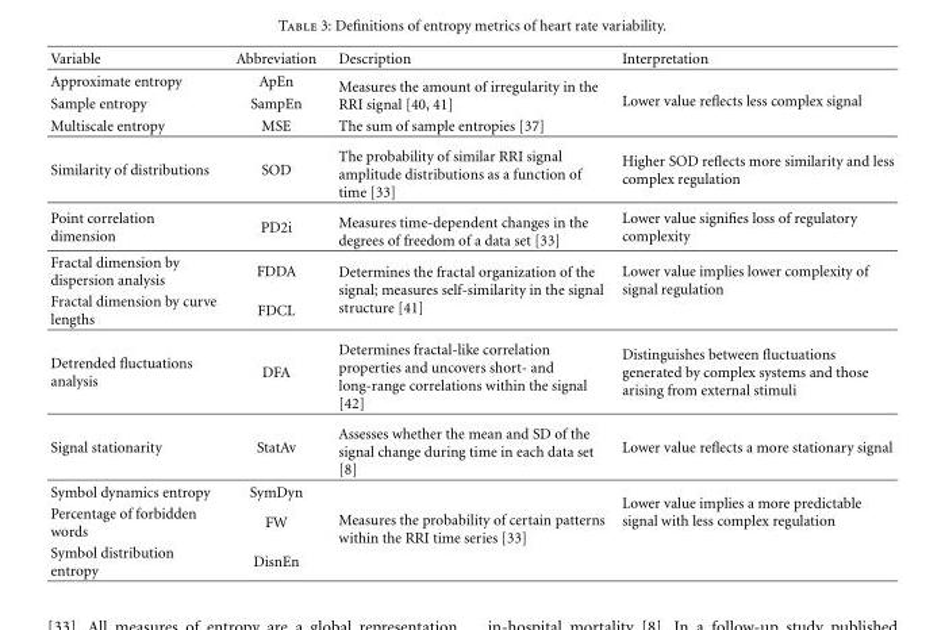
<table><thead><tr><td>Variable</td><td>Abbreviation</td><td>Description</td><td>Interpretation</td></tr></thead><tbody><tr><td>Approximate entropy</td><td>ApEn</td><td rowspan="2">Measures the amount of irregularity in the RRI signal [40, 41]</td><td rowspan="3">Lower value reflects less complex signal</td></tr><tr><td>Sample entropy</td><td>SampEn</td></tr><tr><td>Multiscale entropy</td><td>MSE</td><td>The sum of sample entropies [37]</td></tr><tr><td>Similarity of distributions</td><td>SOD</td><td>The probability of similar RRI signal amplitude distributions as a function of time [33]</td><td>Higher SOD reflects more similarity and less complex regulation</td></tr><tr><td>Point correlation dimension</td><td>PD2i</td><td>Measures time-dependent changes in the degrees of freedom of a data set [33]</td><td>Lower value signifies loss of regulatory complexity</td></tr><tr><td>Fractal dimension by dispersion analysis</td><td>FDDA</td><td rowspan="2">Determines the fractal organization of the signal; measures self-similarity in the signal structure [41]</td><td rowspan="2">Lower value implies lower complexity of signal regulation</td></tr><tr><td>Fractal dimension by curve lengths</td><td>FDCL</td></tr><tr><td>Detrended fluctuations analysis</td><td>DFA</td><td>Determines fractal-like correlation properties and uncovers short- and long-range correlations within the signal [42]</td><td>Distinguishes between fluctuations generated by complex systems and those arising from external stimuli</td></tr><tr><td>Signal stationarity</td><td>StatAv</td><td>Assesses whether the mean and SD of the signal change during time in each data set [8]</td><td>Lower value reflects a more stationary signal</td></tr><tr><td>Symbol dynamics entropy</td><td>SymDyn</td><td rowspan="3">Measures the probability of certain patterns within the RRI time series [33]</td><td rowspan="3">Lower value implies a more predictable signal with less complex regulation</td></tr><tr><td>Percentage of forbidden words</td><td>FW</td></tr><tr><td>Symbol distribution entropy</td><td>DisnEn</td></tr></tbody></table>